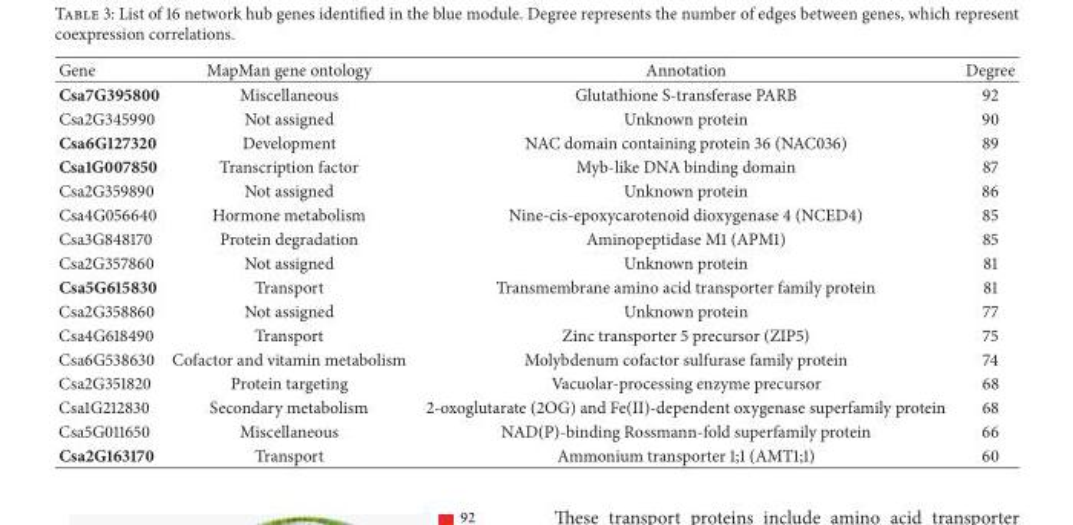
<table><thead><tr><td>Gene</td><td>MapMan gene ontology</td><td>Annotation</td><td>Degree</td></tr></thead><tbody><tr><td>Csa7G395800</td><td>Miscellaneous</td><td>Glutathione S-transferase PARB</td><td>92</td></tr><tr><td>Csa2G345990</td><td>Not assigned</td><td>Unknown protein</td><td>90</td></tr><tr><td>Csa6G127320</td><td>Development</td><td>NAC domain containing protein 36 (NAC036)</td><td>89</td></tr><tr><td>Csa1G007850</td><td>Transcription factor</td><td>Myb-like DNA binding domain</td><td>87</td></tr><tr><td>Csa2G359890</td><td>Not assigned</td><td>Unknown protein</td><td>86</td></tr><tr><td>Csa4G056640</td><td>Hormone metabolism</td><td>Nine-cis-epoxycarotenoid dioxygenase 4 (NCED4)</td><td>85</td></tr><tr><td>Csa3G848170</td><td>Protein degradation</td><td>Aminopeptidase M1 (APM1)</td><td>85</td></tr><tr><td>Csa2G357860</td><td>Not assigned</td><td>Unknown protein</td><td>81</td></tr><tr><td>Csa5G615830</td><td>Transport</td><td>Transmembrane amino acid transporter family protein</td><td>81</td></tr><tr><td>Csa2G358860</td><td>Not assigned</td><td>Unknown protein</td><td>77</td></tr><tr><td>Csa4G618490</td><td>Transport</td><td>Zinc transporter 5 precursor (ZIP5)</td><td>75</td></tr><tr><td>Csa6G538630</td><td>Cofactor and vitamin metabolism</td><td>Molybdenum cofactor sulfurase family protein</td><td>74</td></tr><tr><td>Csa2G351820</td><td>Protein targeting</td><td>Vacuolar-processing enzyme precursor</td><td>68</td></tr><tr><td>Csa1G212830</td><td>Secondary metabolism</td><td>2-oxoglutarate (2OG) and Fe(II)-dependent oxygenase superfamily protein</td><td>68</td></tr><tr><td>Csa5G011650</td><td>Miscellaneous</td><td>NAD(P)-binding Rossmann-fold superfamily protein</td><td>66</td></tr><tr><td>Csa2G163170</td><td>Transport</td><td>Ammonium transporter 1;1 (AMT1;1)</td><td>60</td></tr></tbody></table>